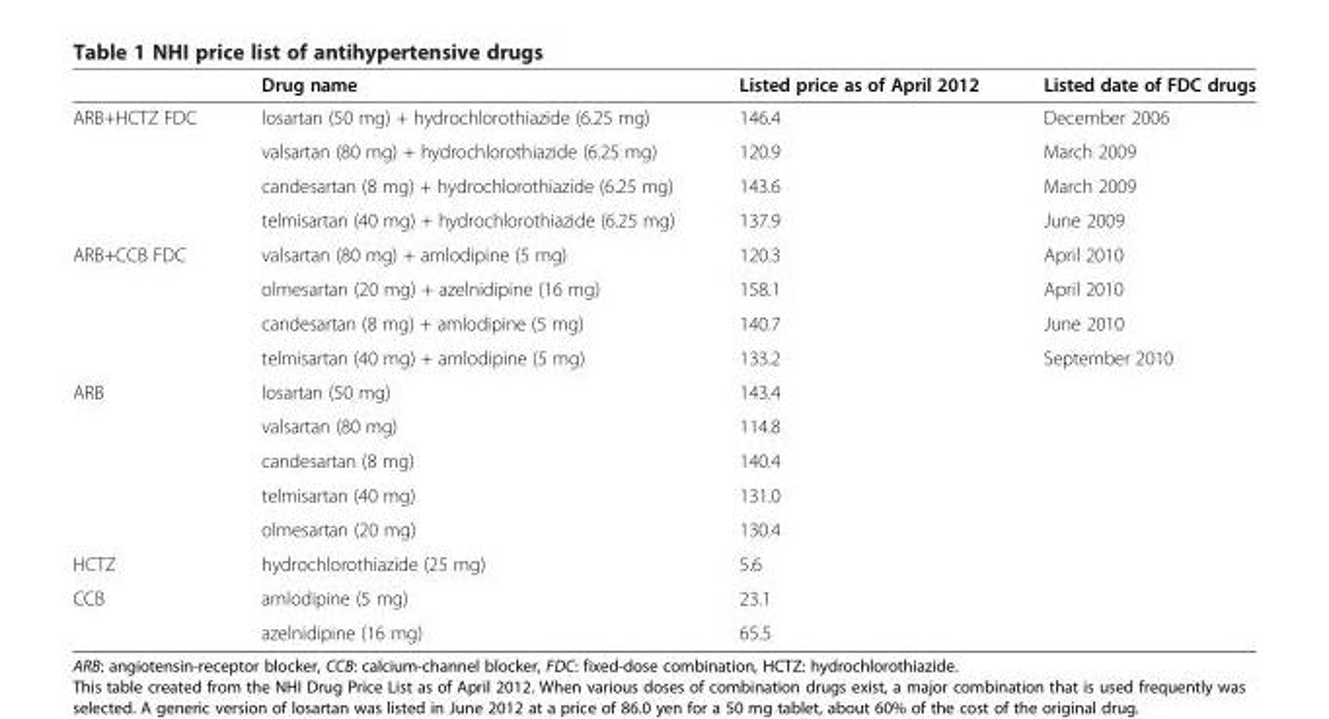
<table><thead><tr><td></td><td>Drug name</td><td>Listed price as of April 2012</td><td>Listed date of FDC drugs</td></tr></thead><tbody><tr><td rowspan="4">ARB+HCTZ FDC</td><td>losartan (50 mg) + hydrochlorothiazide (6.25 mg)</td><td>146.4</td><td>December 2006</td></tr><tr><td>valsartan (80 mg) + hydrochlorothiazide (6.25 mg)</td><td>120.9</td><td>March 2009</td></tr><tr><td>candesartan (8 mg) + hydrochlorothiazide (6.25 mg)</td><td>143.6</td><td>March 2009</td></tr><tr><td>telmisartan (40 mg) + hydrochlorothiazide (6.25 mg)</td><td>137.9</td><td>June 2009</td></tr><tr><td rowspan="4">ARB+CCB FDC</td><td>valsartan (80 mg) + amlodipine (5 mg)</td><td>120.3</td><td>April 2010</td></tr><tr><td>olmesartan (20 mg) + azelnidipine (16 mg)</td><td>158.1</td><td>April 2010</td></tr><tr><td>candesartan (8 mg) + amlodipine (5 mg)</td><td>140.7</td><td>June 2010</td></tr><tr><td>telmisartan (40 mg) + amlodipine (5 mg)</td><td>133.2</td><td>September 2010</td></tr><tr><td rowspan="5">ARB</td><td>losartan (50 mg)</td><td>143.4</td><td></td></tr><tr><td>valsartan (80 mg)</td><td>114.8</td><td></td></tr><tr><td>candesartan (8 mg)</td><td>140.4</td><td></td></tr><tr><td>telmisartan (40 mg)</td><td>131.0</td><td></td></tr><tr><td>olmesartan (20 mg)</td><td>130.4</td><td></td></tr><tr><td>HCTZ</td><td>hydrochlorothiazide (25 mg)</td><td>5.6</td><td></td></tr><tr><td rowspan="2">CCB</td><td>amlodipine (5 mg)</td><td>23.1</td><td></td></tr><tr><td>azelnidipine (16 mg)</td><td>65.5</td><td></td></tr></tbody></table>